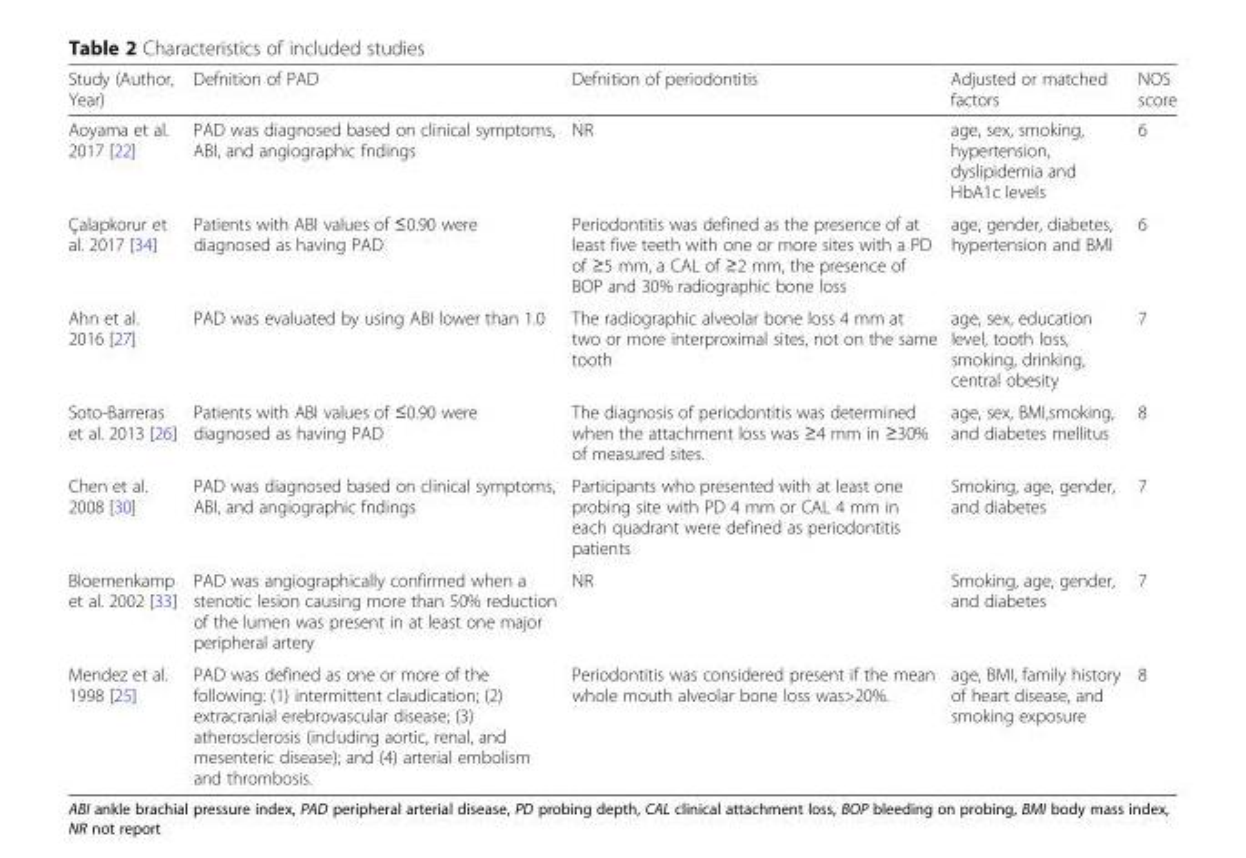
<table><thead><tr><td>Study (Author, Year)</td><td>Defnition of PAD</td><td>Defnition of periodontitis</td><td>Adjusted or matched factors</td><td>NOS score</td></tr></thead><tbody><tr><td>Aoyama et al. 2017 [22]</td><td>PAD was diagnosed based on clinical symptoms, ABI, and angiographic fndings</td><td>NR</td><td>age, sex, smoking, hypertension, dyslipidemia and HbA1c levels</td><td>6</td></tr><tr><td>Çalapkorur et al. 2017 [34]</td><td>Patients with ABI values of ≤0.90 were diagnosed as having PAD</td><td>Periodontitis was defined as the presence of at least five teeth with one or more sites with a PD of ≥5 mm, a CAL of ≥2 mm, the presence of BOP and 30% radiographic bone loss</td><td>age, gender, diabetes, hypertension and BMI</td><td>6</td></tr><tr><td>Ahn et al. 2016 [27]</td><td>PAD was evaluated by using ABI lower than 1.0</td><td>The radiographic alveolar bone loss 4 mm at two or more interproximal sites, not on the same tooth</td><td>age, sex, education level, tooth loss, smoking, drinking, central obesity</td><td>7</td></tr><tr><td>Soto-Barreras et al. 2013 [26]</td><td>Patients with ABI values of ≤0.90 were diagnosed as having PAD</td><td>The diagnosis of periodontitis was determined when the attachment loss was ≥4 mm in ≥30% of measured sites.</td><td>age, sex, BMI,smoking, and diabetes mellitus</td><td>8</td></tr><tr><td>Chen et al. 2008 [30]</td><td>PAD was diagnosed based on clinical symptoms, ABI, and angiographic fndings</td><td>Participants who presented with at least one probing site with PD 4 mm or CAL 4 mm in each quadrant were defined as periodontitis patients</td><td>Smoking, age, gender, and diabetes</td><td>7</td></tr><tr><td>Bloemenkamp et al. 2002 [33]</td><td>PAD was angiographically confirmed when a stenotic lesion causing more than 50% reduction of the lumen was present in at least one major peripheral artery</td><td>NR</td><td>Smoking, age, gender, and diabetes</td><td>7</td></tr><tr><td>Mendez et al. 1998 [25]</td><td>PAD was defined as one or more of the following: (1) intermittent claudication; (2) extracranial erebrovascular disease; (3) atherosclerosis (including aortic, renal, and mesenteric disease); and (4) arterial embolism and thrombosis.</td><td>Periodontitis was considered present if the mean whole mouth alveolar bone loss was&gt;20%.</td><td>age, BMI, family history of heart disease, and smoking exposure</td><td>8</td></tr></tbody></table>